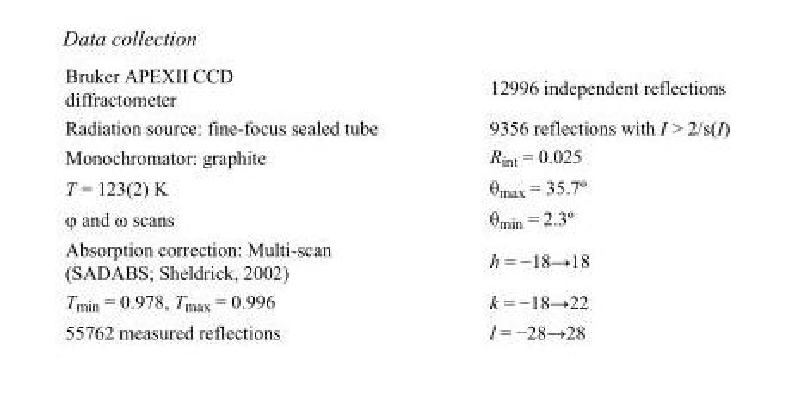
<table><tbody><tr><td>Bruker APEXII CCD diffractometer</td><td>12996 independent reflections</td></tr><tr><td>Radiation source: fine-focus sealed tube</td><td>9356 reflections with I &gt; 2/s(I)</td></tr><tr><td>Monochromator: graphite</td><td>R<sub>int</sub> = 0.025</td></tr><tr><td>T = 123(2) K</td><td>θ<sub>max</sub> = 35.7º</td></tr><tr><td>φ and ω scans</td><td>θ<sub>min</sub> = 2.3º</td></tr><tr><td>Absorption correction: Multi-scan (SADABS; Sheldrick, 2002)</td><td>h = −18→18</td></tr><tr><td>T<sub>min</sub> = 0.978, T<sub>max</sub> = 0.996</td><td>k = −18→22</td></tr><tr><td>55762 measured reflections</td><td>l = −28→28</td></tr></tbody></table>